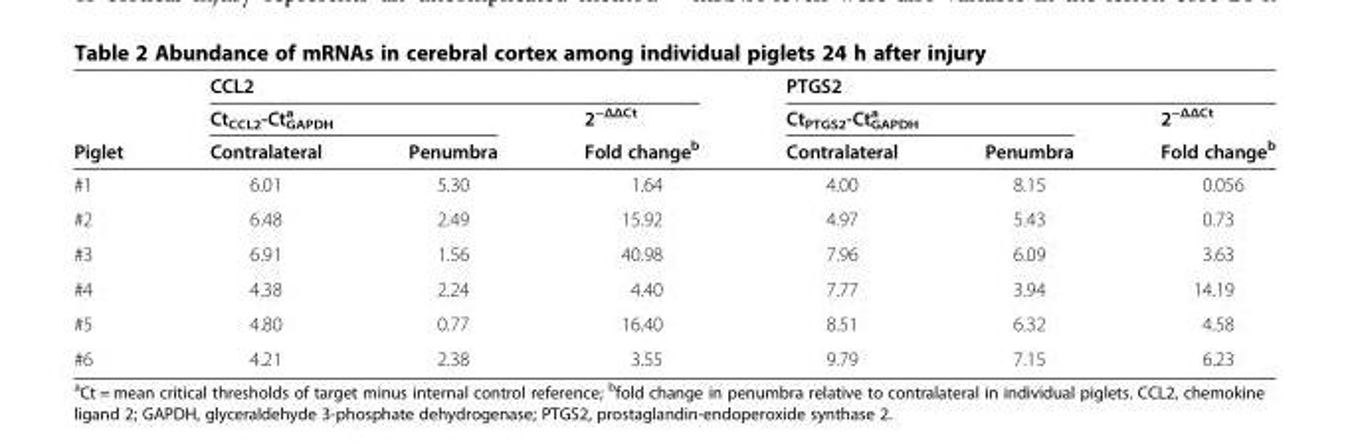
<table><thead><tr><td rowspan="3">Piglet</td><td colspan="3">CCL2</td><td colspan="3">PTGS2</td></tr><tr><td colspan="2">Ct<sub>CCL2</sub>-Ct<sub>GAPDH</sub> <sup>a</sup></td><td rowspan="2">2<sup>−ΔΔCt</sup> Fold change<sup>b</sup></td><td colspan="2">Ct<sub>PTGS2</sub>-Ct<sub>GAPDH</sub> <sup>a</sup></td><td rowspan="2">2<sup>−ΔΔCt</sup> Fold change<sup>b</sup></td></tr><tr><td>Contralateral</td><td>Penumbra</td><td>Contralateral</td><td>Penumbra</td></tr></thead><tbody><tr><td>#1</td><td>6.01</td><td>5.30</td><td>1.64</td><td>4.00</td><td>8.15</td><td>0.056</td></tr><tr><td>#2</td><td>6.48</td><td>2.49</td><td>15.92</td><td>4.97</td><td>5.43</td><td>0.73</td></tr><tr><td>#3</td><td>6.91</td><td>1.56</td><td>40.98</td><td>7.96</td><td>6.09</td><td>3.63</td></tr><tr><td>#4</td><td>4.38</td><td>2.24</td><td>4.40</td><td>7.77</td><td>3.94</td><td>14.19</td></tr><tr><td>#5</td><td>4.80</td><td>0.77</td><td>16.40</td><td>8.51</td><td>6.32</td><td>4.58</td></tr><tr><td>#6</td><td>4.21</td><td>2.38</td><td>3.55</td><td>9.79</td><td>7.15</td><td>6.23</td></tr></tbody></table>